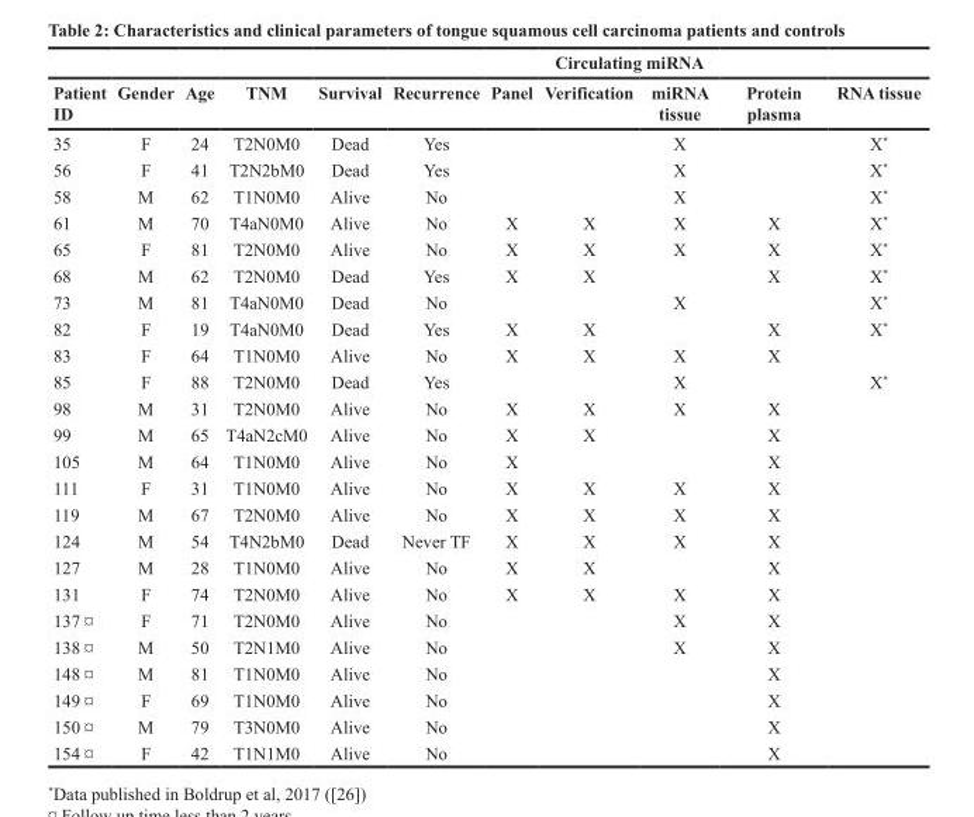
<table><thead><tr><td rowspan="2">Patient ID</td><td rowspan="2">Gender</td><td rowspan="2">Age</td><td rowspan="2">TNM</td><td rowspan="2">Survival</td><td rowspan="2">Recurrence</td><td rowspan="2">Panel</td><td colspan="2">Circulating miRNA</td><td rowspan="2">Protein plasma</td><td rowspan="2">RNA tissue</td></tr><tr><td>Verification</td><td>miRNA tissue</td></tr></thead><tbody><tr><td>35</td><td>F</td><td>24</td><td>T2N0M0</td><td>Dead</td><td>Yes</td><td></td><td></td><td>X</td><td></td><td>X*</td></tr><tr><td>56</td><td>F</td><td>41</td><td>T2N2bM0</td><td>Dead</td><td>Yes</td><td></td><td></td><td>X</td><td></td><td>X*</td></tr><tr><td>58</td><td>M</td><td>62</td><td>T1N0M0</td><td>Alive</td><td>No</td><td></td><td></td><td>X</td><td></td><td>X*</td></tr><tr><td>61</td><td>M</td><td>70</td><td>T4aN0M0</td><td>Alive</td><td>No</td><td>X</td><td>X</td><td>X</td><td>X</td><td>X*</td></tr><tr><td>65</td><td>F</td><td>81</td><td>T2N0M0</td><td>Alive</td><td>No</td><td>X</td><td>X</td><td>X</td><td>X</td><td>X*</td></tr><tr><td>68</td><td>M</td><td>62</td><td>T2N0M0</td><td>Dead</td><td>Yes</td><td>X</td><td>X</td><td></td><td>X</td><td>X*</td></tr><tr><td>73</td><td>M</td><td>81</td><td>T4aN0M0</td><td>Dead</td><td>No</td><td></td><td></td><td>X</td><td></td><td>X*</td></tr><tr><td>82</td><td>F</td><td>19</td><td>T4aN0M0</td><td>Dead</td><td>Yes</td><td>X</td><td>X</td><td></td><td>X</td><td>X*</td></tr><tr><td>83</td><td>F</td><td>64</td><td>T1N0M0</td><td>Alive</td><td>No</td><td>X</td><td>X</td><td>X</td><td>X</td><td></td></tr><tr><td>85</td><td>F</td><td>88</td><td>T2N0M0</td><td>Dead</td><td>Yes</td><td></td><td></td><td>X</td><td></td><td>X*</td></tr><tr><td>98</td><td>M</td><td>31</td><td>T2N0M0</td><td>Alive</td><td>No</td><td>X</td><td>X</td><td>X</td><td>X</td><td></td></tr><tr><td>99</td><td>M</td><td>65</td><td>T4aN2cM0</td><td>Alive</td><td>No</td><td>X</td><td>X</td><td></td><td>X</td><td></td></tr><tr><td>105</td><td>M</td><td>64</td><td>T1N0M0</td><td>Alive</td><td>No</td><td>X</td><td></td><td></td><td>X</td><td></td></tr><tr><td>111</td><td>F</td><td>31</td><td>T1N0M0</td><td>Alive</td><td>No</td><td>X</td><td>X</td><td>X</td><td>X</td><td></td></tr><tr><td>119</td><td>M</td><td>67</td><td>T2N0M0</td><td>Alive</td><td>No</td><td>X</td><td>X</td><td>X</td><td>X</td><td></td></tr><tr><td>124</td><td>M</td><td>54</td><td>T4N2bM0</td><td>Dead</td><td>Never TF</td><td>X</td><td>X</td><td>X</td><td>X</td><td></td></tr><tr><td>127</td><td>M</td><td>28</td><td>T1N0M0</td><td>Alive</td><td>No</td><td>X</td><td>X</td><td></td><td>X</td><td></td></tr><tr><td>131</td><td>F</td><td>74</td><td>T2N0M0</td><td>Alive</td><td>No</td><td>X</td><td>X</td><td>X</td><td>X</td><td></td></tr><tr><td>137 ¤</td><td>F</td><td>71</td><td>T2N0M0</td><td>Alive</td><td>No</td><td></td><td></td><td>X</td><td>X</td><td></td></tr><tr><td>138 ¤</td><td>M</td><td>50</td><td>T2N1M0</td><td>Alive</td><td>No</td><td></td><td></td><td>X</td><td>X</td><td></td></tr><tr><td>148 ¤</td><td>M</td><td>81</td><td>T1N0M0</td><td>Alive</td><td>No</td><td></td><td></td><td></td><td>X</td><td></td></tr><tr><td>149 ¤</td><td>F</td><td>69</td><td>T1N0M0</td><td>Alive</td><td>No</td><td></td><td></td><td></td><td>X</td><td></td></tr><tr><td>150 ¤</td><td>M</td><td>79</td><td>T3N0M0</td><td>Alive</td><td>No</td><td></td><td></td><td></td><td>X</td><td></td></tr><tr><td>154 ¤</td><td>F</td><td>42</td><td>T1N1M0</td><td>Alive</td><td>No</td><td></td><td></td><td></td><td>X</td><td></td></tr></tbody></table>